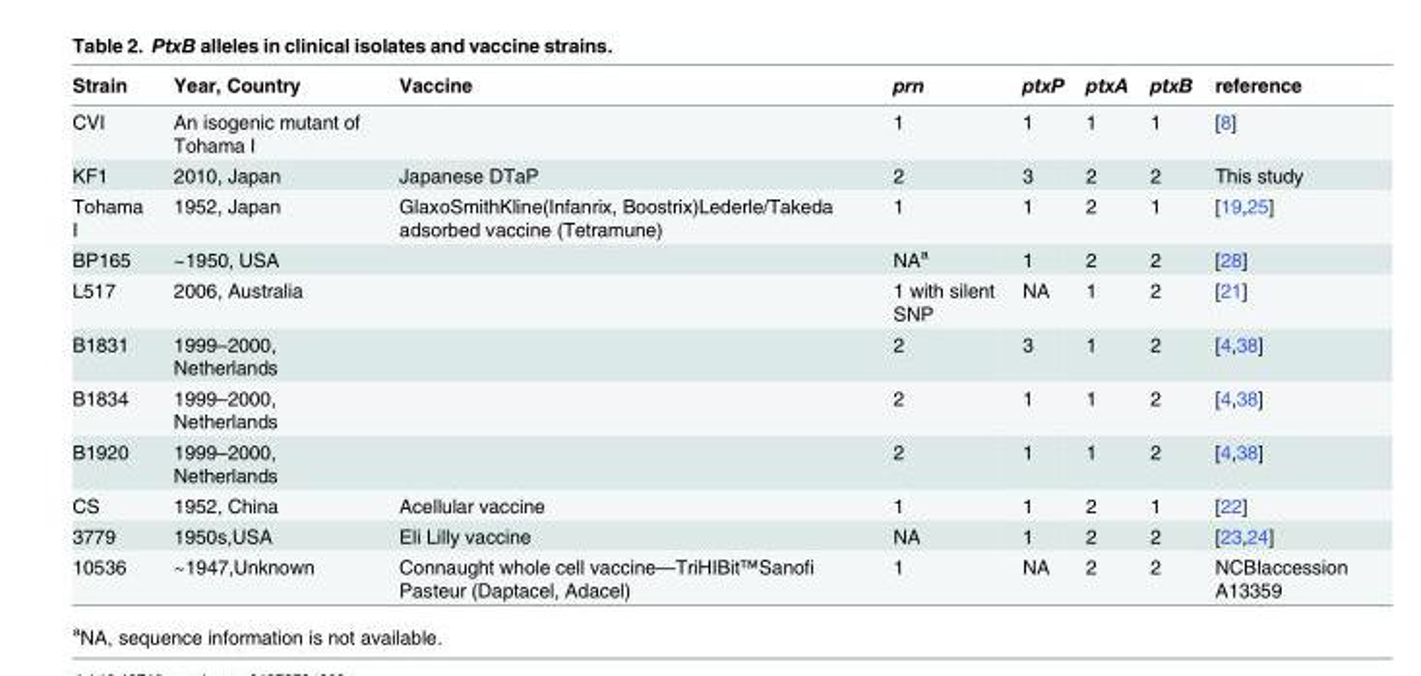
<table><thead><tr><td>Strain</td><td>Year, Country</td><td>Vaccine</td><td>prn</td><td>ptxP</td><td>ptxA</td><td>ptxB</td><td>reference</td></tr></thead><tbody><tr><td>CVI</td><td>An isogenic mutant of Tohama I</td><td></td><td>1</td><td>1</td><td>1</td><td>1</td><td>[8]</td></tr><tr><td>KF1</td><td>2010, Japan</td><td>Japanese DTaP</td><td>2</td><td>3</td><td>2</td><td>2</td><td>This study</td></tr><tr><td>Tohama I</td><td>1952, Japan</td><td>GlaxoSmithKline(Infanrix, Boostrix)Lederle/Takeda adsorbed vaccine (Tetramune)</td><td>1</td><td>1</td><td>2</td><td>1</td><td>[19,25]</td></tr><tr><td>BP165</td><td>~1950, USA</td><td></td><td>NA<sup>a</sup></td><td>1</td><td>2</td><td>2</td><td>[28]</td></tr><tr><td>L517</td><td>2006, Australia</td><td></td><td>1 with silent SNP</td><td>NA</td><td>1</td><td>2</td><td>[21]</td></tr><tr><td>B1831</td><td>1999–2000, Netherlands</td><td></td><td>2</td><td>3</td><td>1</td><td>2</td><td>[4,38]</td></tr><tr><td>B1834</td><td>1999–2000, Netherlands</td><td></td><td>2</td><td>1</td><td>1</td><td>2</td><td>[4,38]</td></tr><tr><td>B1920</td><td>1999–2000, Netherlands</td><td></td><td>2</td><td>1</td><td>1</td><td>2</td><td>[4,38]</td></tr><tr><td>CS</td><td>1952, China</td><td>Acellular vaccine</td><td>1</td><td>1</td><td>2</td><td>1</td><td>[22]</td></tr><tr><td>3779</td><td>1950s,USA</td><td>Eli Lilly vaccine</td><td>NA</td><td>1</td><td>2</td><td>2</td><td>[23,24]</td></tr><tr><td>10536</td><td>~1947,Unknown</td><td>Connaught whole cell vaccine—TriHIBit™Sanofi Pasteur (Daptacel, Adacel)</td><td>1</td><td>NA</td><td>2</td><td>2</td><td>NCBIaccession A13359</td></tr></tbody></table>